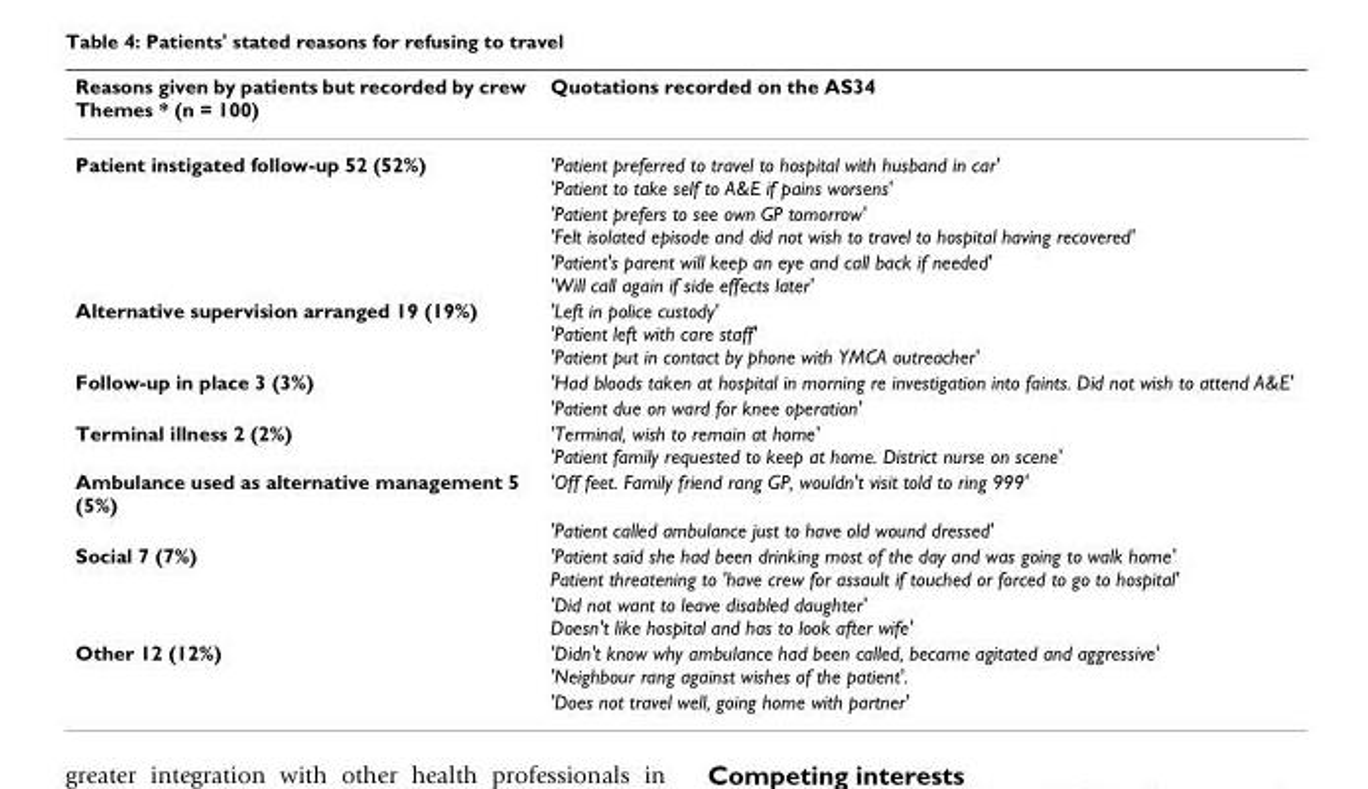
<table><thead><tr><td>Reasons given by patients but recorded by crew Themes * (n = 100)</td><td>Quotations recorded on the AS34</td></tr></thead><tbody><tr><td rowspan="3">Patient instigated follow-up 52 (52%)</td><td>&#x27;Patient preferred to travel to hospital with husband in car&#x27; &#x27;Patient to take self to A&amp;E if pains worsens&#x27;</td></tr><tr><td>&#x27;Patient prefers to see own GP tomorrow&#x27; &#x27;Felt isolated episode and did not wish to travel to hospital having recovered&#x27;</td></tr><tr><td>&#x27;Patient&#x27;s parent will keep an eye and call back if needed&#x27; &#x27;Will call again if side effects later&#x27;</td></tr><tr><td>Alternative supervision arranged 19 (19%)</td><td>&#x27;Left in police custody&#x27; &#x27;Patient left with care staff&#x27; &#x27;Patient put in contact by phone with YMCA outreacher&#x27;</td></tr><tr><td rowspan="2">Follow-up in place 3 (3%)</td><td>&#x27;Had bloods taken at hospital in morning re investigation into faints. Did not wish to attend A&amp;E&#x27;</td></tr><tr><td>&#x27;Patient due on ward for knee operation&#x27;</td></tr><tr><td>Terminal illness 2 (2%)</td><td>&#x27;Terminal, wish to remain at home&#x27; &#x27;Patient family requested to keep at home. District nurse on scene&#x27;</td></tr><tr><td rowspan="2">Ambulance used as alternative management 5 (5%)</td><td>&#x27;Off feet. Family friend rang GP, wouldn&#x27;t visit told to ring 999&#x27;</td></tr><tr><td>&#x27;Patient called ambulance just to have old wound dressed&#x27;</td></tr><tr><td rowspan="2">Social 7 (7%)</td><td>&#x27;Patient said she had been drinking most of the day and was going to walk home&#x27; Patient threatening to &#x27;have crew for assault if touched or forced to go to hospital&#x27;</td></tr><tr><td>&#x27;Did not want to leave disabled daughter&#x27; Doesn&#x27;t like hospital and has to look after wife&#x27;</td></tr><tr><td rowspan="2">Other 12 (12%)</td><td>&#x27;Didn&#x27;t know why ambulance had been called, became agitated and aggressive&#x27; &#x27;Neighbour rang against wishes of the patient&#x27;.</td></tr><tr><td>&#x27;Does not travel well, going home with partner&#x27;</td></tr></tbody></table>